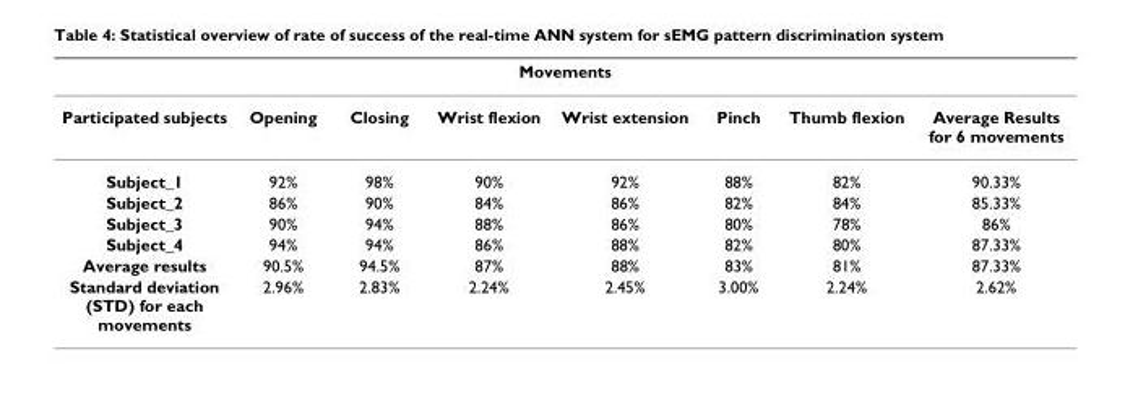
<table><thead><tr><td colspan="8">Movements</td></tr><tr><td>Participated subjects</td><td>Opening</td><td>Closing</td><td>Wrist flexion</td><td>Wrist extension</td><td>Pinch</td><td>Thumb flexion</td><td>Average Results for 6 movements</td></tr></thead><tbody><tr><td>Subject_1</td><td>92%</td><td>98%</td><td>90%</td><td>92%</td><td>88%</td><td>82%</td><td>90.33%</td></tr><tr><td>Subject_2</td><td>86%</td><td>90%</td><td>84%</td><td>86%</td><td>82%</td><td>84%</td><td>85.33%</td></tr><tr><td>Subject_3</td><td>90%</td><td>94%</td><td>88%</td><td>86%</td><td>80%</td><td>78%</td><td>86%</td></tr><tr><td>Subject_4</td><td>94%</td><td>94%</td><td>86%</td><td>88%</td><td>82%</td><td>80%</td><td>87.33%</td></tr><tr><td>Average results</td><td>90.5%</td><td>94.5%</td><td>87%</td><td>88%</td><td>83%</td><td>81%</td><td>87.33%</td></tr><tr><td>Standard deviation (STD) for each movements</td><td>2.96%</td><td>2.83%</td><td>2.24%</td><td>2.45%</td><td>3.00%</td><td>2.24%</td><td>2.62%</td></tr></tbody></table>